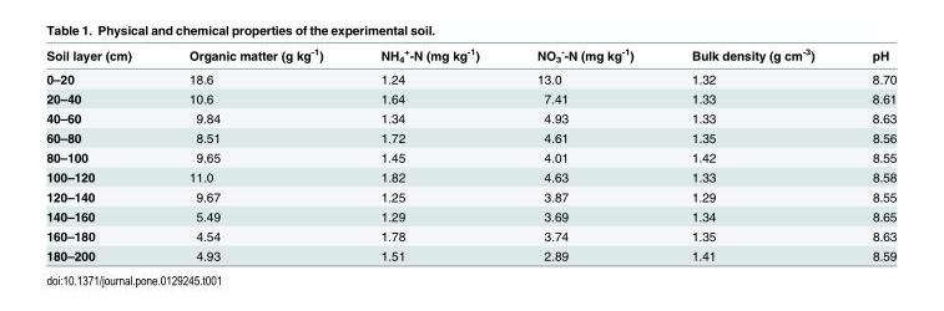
<table><thead><tr><td>Soil layer (cm)</td><td>Organic matter (g kg<sup>-1</sup>)</td><td>NH<sub>4</sub> <sup>+</sup>-N (mg kg<sup>-1</sup>)</td><td>NO<sub>3</sub> <sup>-</sup>-N (mg kg<sup>-1</sup>)</td><td>Bulk density (g cm<sup>-3</sup>)</td><td>pH</td></tr></thead><tbody><tr><td>0–20</td><td>18.6</td><td>1.24</td><td>13.0</td><td>1.32</td><td>8.70</td></tr><tr><td>20–40</td><td>10.6</td><td>1.64</td><td>7.41</td><td>1.33</td><td>8.61</td></tr><tr><td>40–60</td><td>9.84</td><td>1.34</td><td>4.93</td><td>1.33</td><td>8.63</td></tr><tr><td>60–80</td><td>8.51</td><td>1.72</td><td>4.61</td><td>1.35</td><td>8.56</td></tr><tr><td>80–100</td><td>9.65</td><td>1.45</td><td>4.01</td><td>1.42</td><td>8.55</td></tr><tr><td>100–120</td><td>11.0</td><td>1.82</td><td>4.63</td><td>1.33</td><td>8.58</td></tr><tr><td>120–140</td><td>9.67</td><td>1.25</td><td>3.87</td><td>1.29</td><td>8.55</td></tr><tr><td>140–160</td><td>5.49</td><td>1.29</td><td>3.69</td><td>1.34</td><td>8.65</td></tr><tr><td>160–180</td><td>4.54</td><td>1.78</td><td>3.74</td><td>1.35</td><td>8.63</td></tr><tr><td>180–200</td><td>4.93</td><td>1.51</td><td>2.89</td><td>1.41</td><td>8.59</td></tr></tbody></table>